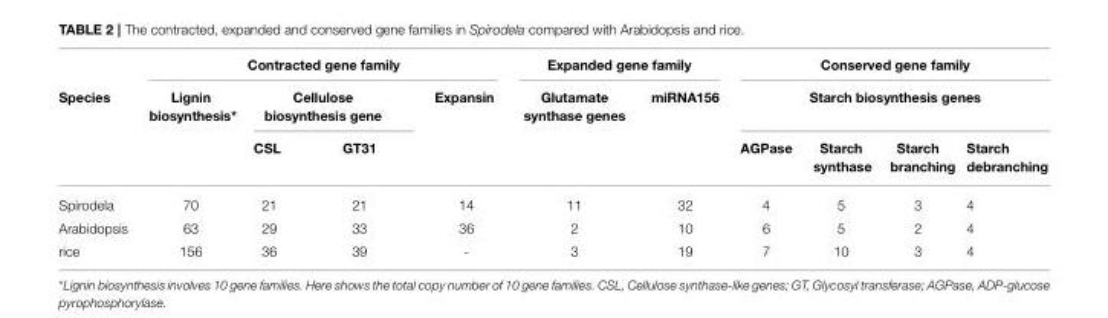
<table><thead><tr><td rowspan="3">Species</td><td colspan="4">Contracted gene family</td><td colspan="2">Expanded gene family</td><td rowspan="2" colspan="4">Conserved gene family Starch biosynthesis genes</td></tr><tr><td rowspan="2">Lignin biosynthesis*</td><td colspan="2">Cellulose biosynthesis gene</td><td rowspan="2">Expansin</td><td rowspan="2">Glutamate synthase genes</td><td rowspan="2">miRNA156</td></tr><tr><td>CSL</td><td>GT31</td><td>AGPase</td><td>Starch synthase</td><td>Starch branching</td><td>Starch debranching</td></tr></thead><tbody><tr><td>Spirodela</td><td>70</td><td>21</td><td>21</td><td>14</td><td>11</td><td>32</td><td>4</td><td>5</td><td>3</td><td>4</td></tr><tr><td>Arabidopsis</td><td>63</td><td>29</td><td>33</td><td>36</td><td>2</td><td>10</td><td>6</td><td>5</td><td>2</td><td>4</td></tr><tr><td>rice</td><td>156</td><td>36</td><td>39</td><td>-</td><td>3</td><td>19</td><td>7</td><td>10</td><td>3</td><td>4</td></tr></tbody></table>